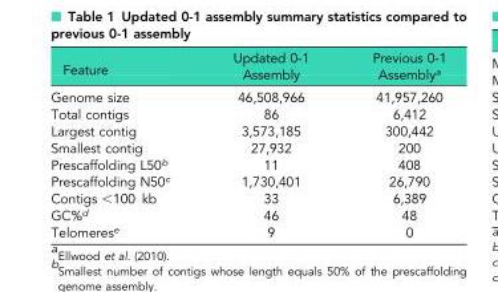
<table><thead><tr><td>Feature</td><td>Updated 0-1 Assembly</td><td>Previous 0-1 Assembly<sup>a</sup></td></tr></thead><tbody><tr><td>Genome size</td><td>46,508,966</td><td>41,957,260</td></tr><tr><td>Total contigs</td><td>86</td><td>6,412</td></tr><tr><td>Largest contig</td><td>3,573,185</td><td>300,442</td></tr><tr><td>Smallest contig</td><td>27,932</td><td>200</td></tr><tr><td>Prescaffolding L50<sup>b</sup></td><td>11</td><td>408</td></tr><tr><td>Prescaffolding N50<sup>c</sup></td><td>1,730,401</td><td>26,790</td></tr><tr><td>Contigs &lt;100 kb</td><td>33</td><td>6,389</td></tr><tr><td>GC%<sup>d</sup></td><td>46</td><td>48</td></tr><tr><td>Telomeres<sup>e</sup></td><td>9</td><td>0</td></tr></tbody></table>